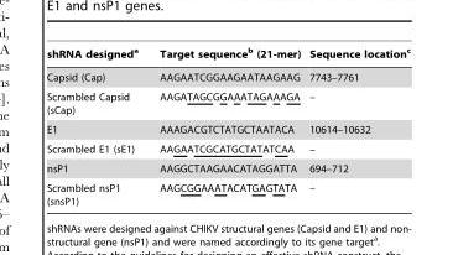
<table><thead><tr><td>shRNA designed<sup>a</sup></td><td>Target sequence<sup>b</sup> (21-mer)</td><td>Sequence location<sup>c</sup></td></tr></thead><tbody><tr><td>Capsid (Cap)</td><td>AAGAATCGGAAGAATAAGAAG</td><td>7743–7761</td></tr><tr><td>Scrambled Capsid (sCap)</td><td>AAGATAGCGGAAATAGAAAGA</td><td>–</td></tr><tr><td>E1</td><td>AAAGACGTCTATGCTAATACA</td><td>10614–10632</td></tr><tr><td>Scrambled E1 (sE1)</td><td>AAGAATCGCATGCTATATCAA</td><td>–</td></tr><tr><td>nsP1</td><td>AAGGCTAAGAACATAGGATTA</td><td>694–712</td></tr><tr><td>Scrambled nsP1 (snsP1)</td><td>AAGCGGAAATACATGAGTATA</td><td>–</td></tr></tbody></table>